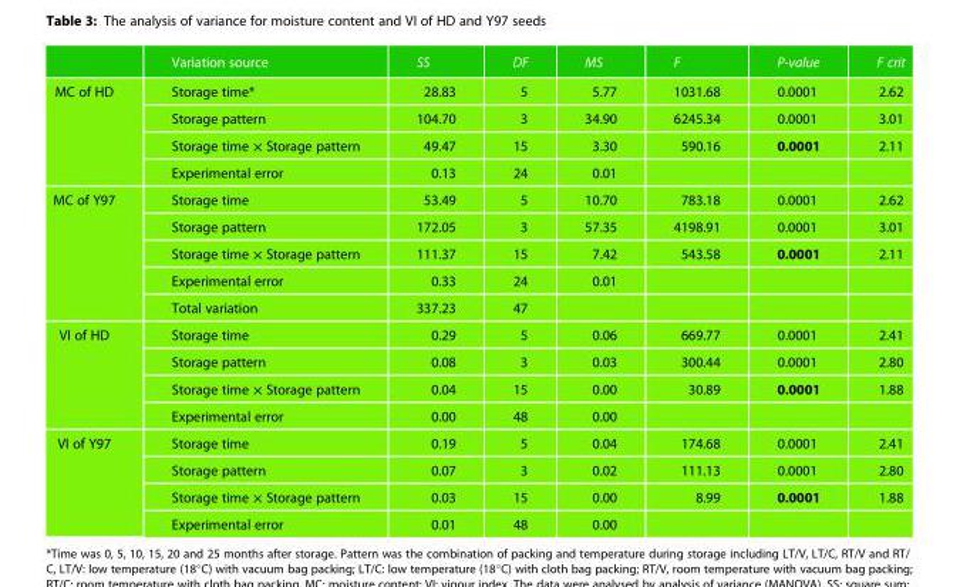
<table><thead><tr><td></td><td>Variation source</td><td>SS</td><td>DF</td><td>MS</td><td>F</td><td>P-value</td><td>F crit</td></tr></thead><tbody><tr><td rowspan="4">MC of HD</td><td>Storage time*</td><td>28.83</td><td>5</td><td>5.77</td><td>1031.68</td><td>0.0001</td><td>2.62</td></tr><tr><td>Storage pattern</td><td>104.70</td><td>3</td><td>34.90</td><td>6245.34</td><td>0.0001</td><td>3.01</td></tr><tr><td>Storage time × Storage pattern</td><td>49.47</td><td>15</td><td>3.30</td><td>590.16</td><td>0.0001</td><td>2.11</td></tr><tr><td>Experimental error</td><td>0.13</td><td>24</td><td>0.01</td><td></td><td></td><td></td></tr><tr><td rowspan="5">MC of Y97</td><td>Storage time</td><td>53.49</td><td>5</td><td>10.70</td><td>783.18</td><td>0.0001</td><td>2.62</td></tr><tr><td>Storage pattern</td><td>172.05</td><td>3</td><td>57.35</td><td>4198.91</td><td>0.0001</td><td>3.01</td></tr><tr><td>Storage time × Storage pattern</td><td>111.37</td><td>15</td><td>7.42</td><td>543.58</td><td>0.0001</td><td>2.11</td></tr><tr><td>Experimental error</td><td>0.33</td><td>24</td><td>0.01</td><td></td><td></td><td></td></tr><tr><td>Total variation</td><td>337.23</td><td>47</td><td></td><td></td><td></td><td></td></tr><tr><td rowspan="4">VI of HD</td><td>Storage time</td><td>0.29</td><td>5</td><td>0.06</td><td>669.77</td><td>0.0001</td><td>2.41</td></tr><tr><td>Storage pattern</td><td>0.08</td><td>3</td><td>0.03</td><td>300.44</td><td>0.0001</td><td>2.80</td></tr><tr><td>Storage time × Storage pattern</td><td>0.04</td><td>15</td><td>0.00</td><td>30.89</td><td>0.0001</td><td>1.88</td></tr><tr><td>Experimental error</td><td>0.00</td><td>48</td><td>0.00</td><td></td><td></td><td></td></tr><tr><td rowspan="4">VI of Y97</td><td>Storage time</td><td>0.19</td><td>5</td><td>0.04</td><td>174.68</td><td>0.0001</td><td>2.41</td></tr><tr><td>Storage pattern</td><td>0.07</td><td>3</td><td>0.02</td><td>111.13</td><td>0.0001</td><td>2.80</td></tr><tr><td>Storage time × Storage pattern</td><td>0.03</td><td>15</td><td>0.00</td><td>8.99</td><td>0.0001</td><td>1.88</td></tr><tr><td>Experimental error</td><td>0.01</td><td>48</td><td>0.00</td><td></td><td></td><td></td></tr></tbody></table>